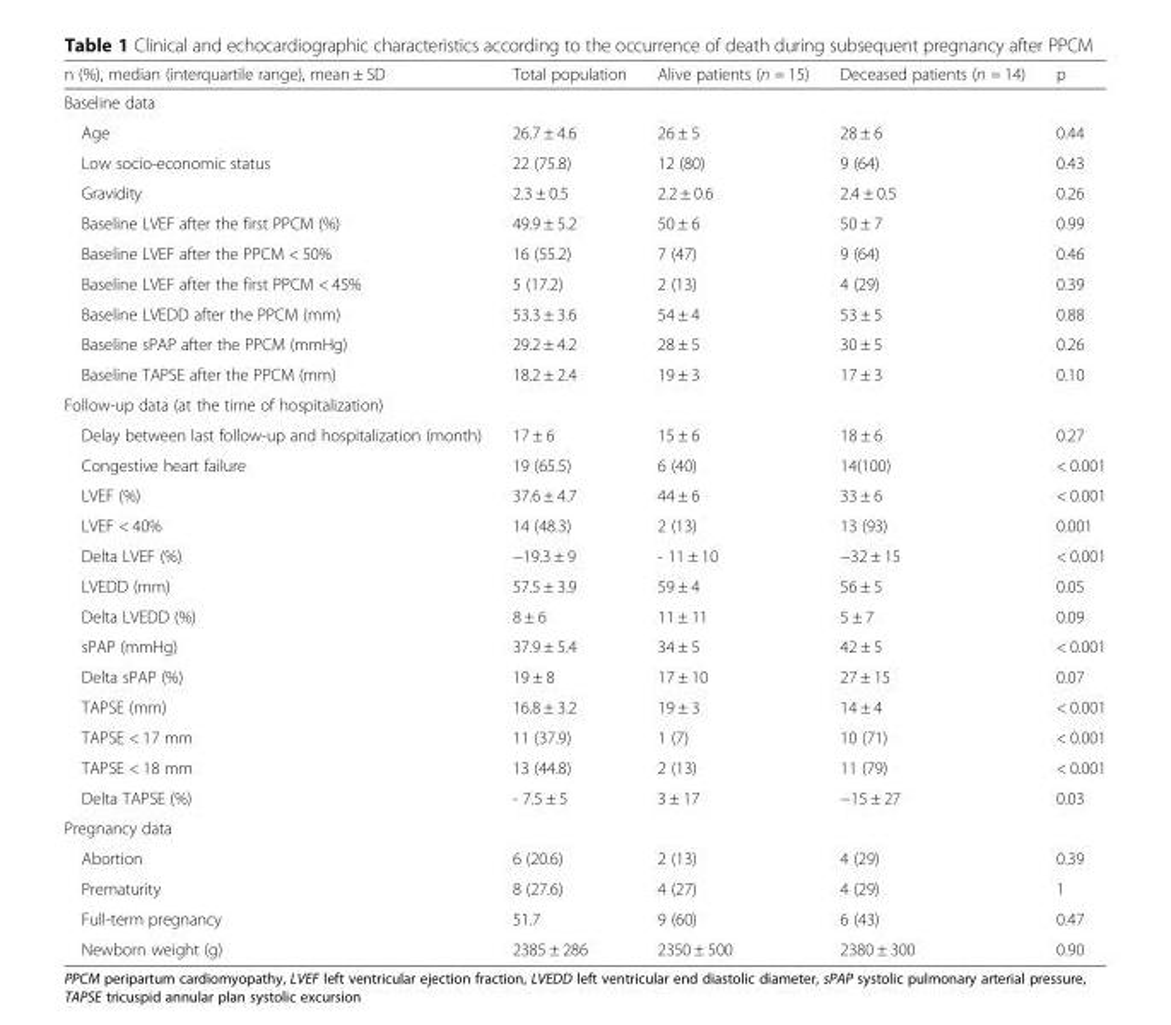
<table><thead><tr><td>n (%), median (interquartile range), mean ± SD</td><td>Total population</td><td>Alive patients (n = 15)</td><td>Deceased patients (n = 14)</td><td>p</td></tr></thead><tbody><tr><td colspan="5">Baseline data</td></tr><tr><td>Age</td><td>26.7 ± 4.6</td><td>26 ± 5</td><td>28 ± 6</td><td>0.44</td></tr><tr><td>Low socio-economic status</td><td>22 (75.8)</td><td>12 (80)</td><td>9 (64)</td><td>0.43</td></tr><tr><td>Gravidity</td><td>2.3 ± 0.5</td><td>2.2 ± 0.6</td><td>2.4 ± 0.5</td><td>0.26</td></tr><tr><td>Baseline LVEF after the first PPCM (%)</td><td>49.9 ± 5.2</td><td>50 ± 6</td><td>50 ± 7</td><td>0.99</td></tr><tr><td>Baseline LVEF after the PPCM &lt; 50%</td><td>16 (55.2)</td><td>7 (47)</td><td>9 (64)</td><td>0.46</td></tr><tr><td>Baseline LVEF after the first PPCM &lt; 45%</td><td>5 (17.2)</td><td>2 (13)</td><td>4 (29)</td><td>0.39</td></tr><tr><td>Baseline LVEDD after the PPCM (mm)</td><td>53.3 ± 3.6</td><td>54 ± 4</td><td>53 ± 5</td><td>0.88</td></tr><tr><td>Baseline sPAP after the PPCM (mmHg)</td><td>29.2 ± 4.2</td><td>28 ± 5</td><td>30 ± 5</td><td>0.26</td></tr><tr><td>Baseline TAPSE after the PPCM (mm)</td><td>18.2 ± 2.4</td><td>19 ± 3</td><td>17 ± 3</td><td>0.10</td></tr><tr><td colspan="5">Follow-up data (at the time of hospitalization)</td></tr><tr><td>Delay between last follow-up and hospitalization (month)</td><td>17 ± 6</td><td>15 ± 6</td><td>18 ± 6</td><td>0.27</td></tr><tr><td>Congestive heart failure</td><td>19 (65.5)</td><td>6 (40)</td><td>14(100)</td><td>&lt; 0.001</td></tr><tr><td>LVEF (%)</td><td>37.6 ± 4.7</td><td>44 ± 6</td><td>33 ± 6</td><td>&lt; 0.001</td></tr><tr><td>LVEF &lt; 40%</td><td>14 (48.3)</td><td>2 (13)</td><td>13 (93)</td><td>0.001</td></tr><tr><td>Delta LVEF (%)</td><td>−19.3 ± 9</td><td>- 11 ± 10</td><td>−32 ± 15</td><td>&lt; 0.001</td></tr><tr><td>LVEDD (mm)</td><td>57.5 ± 3.9</td><td>59 ± 4</td><td>56 ± 5</td><td>0.05</td></tr><tr><td>Delta LVEDD (%)</td><td>8 ± 6</td><td>11 ± 11</td><td>5 ± 7</td><td>0.09</td></tr><tr><td>sPAP (mmHg)</td><td>37.9 ± 5.4</td><td>34 ± 5</td><td>42 ± 5</td><td>&lt; 0.001</td></tr><tr><td>Delta sPAP (%)</td><td>19 ± 8</td><td>17 ± 10</td><td>27 ± 15</td><td>0.07</td></tr><tr><td>TAPSE (mm)</td><td>16.8 ± 3.2</td><td>19 ± 3</td><td>14 ± 4</td><td>&lt; 0.001</td></tr><tr><td>TAPSE &lt; 17 mm</td><td>11 (37.9)</td><td>1 (7)</td><td>10 (71)</td><td>&lt; 0.001</td></tr><tr><td>TAPSE &lt; 18 mm</td><td>13 (44.8)</td><td>2 (13)</td><td>11 (79)</td><td>&lt; 0.001</td></tr><tr><td>Delta TAPSE (%)</td><td>- 7.5 ± 5</td><td>3 ± 17</td><td>−15 ± 27</td><td>0.03</td></tr><tr><td colspan="5">Pregnancy data</td></tr><tr><td>Abortion</td><td>6 (20.6)</td><td>2 (13)</td><td>4 (29)</td><td>0.39</td></tr><tr><td>Prematurity</td><td>8 (27.6)</td><td>4 (27)</td><td>4 (29)</td><td>1</td></tr><tr><td>Full-term pregnancy</td><td>51.7</td><td>9 (60)</td><td>6 (43)</td><td>0.47</td></tr><tr><td>Newborn weight (g)</td><td>2385 ± 286</td><td>2350 ± 500</td><td>2380 ± 300</td><td>0.90</td></tr></tbody></table>